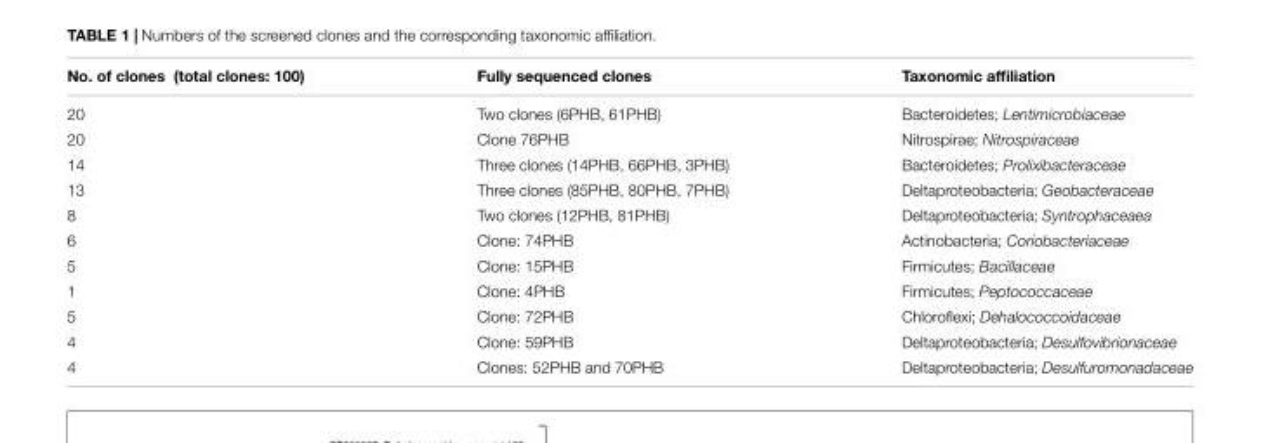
<table><thead><tr><td>No. of clones (total clones: 100)</td><td>Fully sequenced clones</td><td>Taxonomic affiliation</td></tr></thead><tbody><tr><td>20</td><td>Two clones (6PHB, 61PHB)</td><td>Bacteroidetes; Lentimicrobiaceae</td></tr><tr><td>20</td><td>Clone 76PHB</td><td>Nitrospirae; Nitrospiraceae</td></tr><tr><td>14</td><td>Three clones (14PHB, 66PHB, 3PHB)</td><td>Bacteroidetes; Prolixibacteraceae</td></tr><tr><td>13</td><td>Three clones (85PHB, 80PHB, 7PHB)</td><td>Deltaproteobacteria; Geobacteraceae</td></tr><tr><td>8</td><td>Two clones (12PHB, 81PHB)</td><td>Deltaproteobacteria; Syntrophaceaea</td></tr><tr><td>6</td><td>Clone: 74PHB</td><td>Actinobacteria; Coriobacteriaceae</td></tr><tr><td>5</td><td>Clone: 15PHB</td><td>Firmicutes; Bacillaceae</td></tr><tr><td>1</td><td>Clone: 4PHB</td><td>Firmicutes; Peptococcaceae</td></tr><tr><td>5</td><td>Clone: 72PHB</td><td>Chloroflexi; Dehalococcoidaceae</td></tr><tr><td>4</td><td>Clone: 59PHB</td><td>Deltaproteobacteria; Desulfovibrionaceae</td></tr><tr><td>4</td><td>Clones: 52PHB and 70PHB</td><td>Deltaproteobacteria; Desulfuromonadaceae</td></tr></tbody></table>